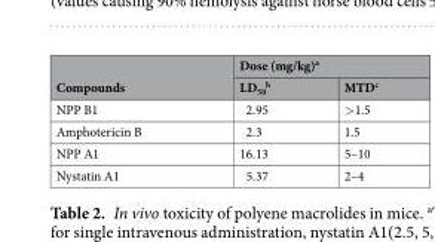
<table><thead><tr><td rowspan="2">Compounds</td><td colspan="2">Dose (mg/kg)<sup>a</sup></td></tr><tr><td>LD<sub>50</sub> <sup>b</sup></td><td>MTD<sup>c</sup></td></tr></thead><tbody><tr><td>NPP B1</td><td>2.95</td><td>&gt;1.5</td></tr><tr><td>Amphotericin B</td><td>2.3</td><td>1.5</td></tr><tr><td>NPP A1</td><td>16.13</td><td>5–10</td></tr><tr><td>Nystatin A1</td><td>5.37</td><td>2–4</td></tr></tbody></table>